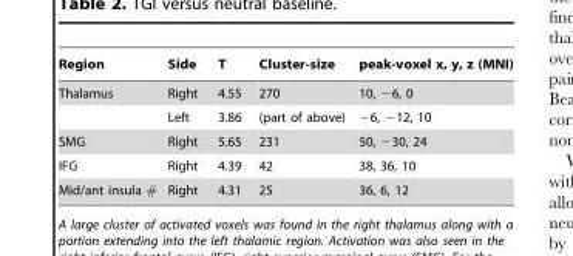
<table><thead><tr><td>Region</td><td>Side</td><td>T</td><td>Cluster-size</td><td>peak-voxel x, y, z (MNI)</td></tr></thead><tbody><tr><td rowspan="2">Thalamus</td><td>Right</td><td>4.55</td><td>270</td><td>10, −6, 0</td></tr><tr><td>Left</td><td>3.86</td><td>(part of above)</td><td>−6, −12, 10</td></tr><tr><td>SMG</td><td>Right</td><td>5.65</td><td>231</td><td>50, −30, 24</td></tr><tr><td>IFG</td><td>Right</td><td>4.39</td><td>42</td><td>38, 36, 10</td></tr><tr><td>Mid/ant insula #</td><td>Right</td><td>4.31</td><td>25</td><td>36, 6, 12</td></tr></tbody></table>